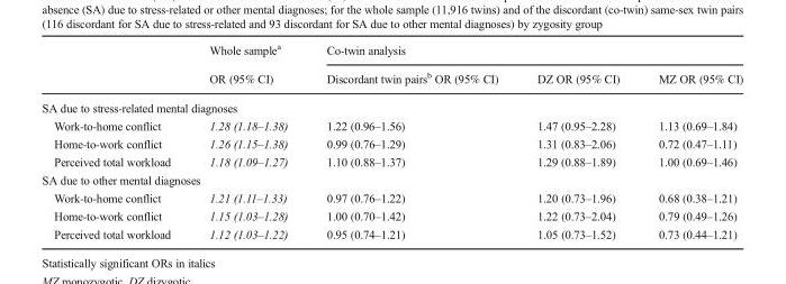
<table><thead><tr><td rowspan="2"></td><td rowspan="2">Whole sample<sup>a</sup> OR (95% CI)</td><td colspan="3">Co-twin analysis</td></tr><tr><td>Discordant twin pairs<sup>b</sup> OR (95% CI)</td><td>DZ OR (95% CI)</td><td>MZ OR (95% CI)</td></tr></thead><tbody><tr><td colspan="5">SA due to stress-related mental diagnoses</td></tr><tr><td>Work-to-home conflict</td><td>1.28 (1.18–1.38)</td><td>1.22 (0.96–1.56)</td><td>1.47 (0.95–2.28)</td><td>1.13 (0.69–1.84)</td></tr><tr><td>Home-to-work conflict</td><td>1.26 (1.15–1.38)</td><td>0.99 (0.76–1.29)</td><td>1.31 (0.83–2.06)</td><td>0.72 (0.47–1.11)</td></tr><tr><td>Perceived total workload</td><td>1.18 (1.09–1.27)</td><td>1.10 (0.88–1.37)</td><td>1.29 (0.88–1.89)</td><td>1.00 (0.69–1.46)</td></tr><tr><td colspan="5">SA due to other mental diagnoses</td></tr><tr><td>Work-to-home conflict</td><td>1.21 (1.11–1.33)</td><td>0.97 (0.76–1.22)</td><td>1.20 (0.73–1.96)</td><td>0.68 (0.38–1.21)</td></tr><tr><td>Home-to-work conflict</td><td>1.15 (1.03–1.28)</td><td>1.00 (0.70–1.42)</td><td>1.22 (0.73–2.04)</td><td>0.79 (0.49–1.26)</td></tr><tr><td>Perceived total workload</td><td>1.12 (1.03–1.22)</td><td>0.95 (0.74–1.21)</td><td>1.05 (0.73–1.52)</td><td>0.73 (0.44–1.21)</td></tr></tbody></table>